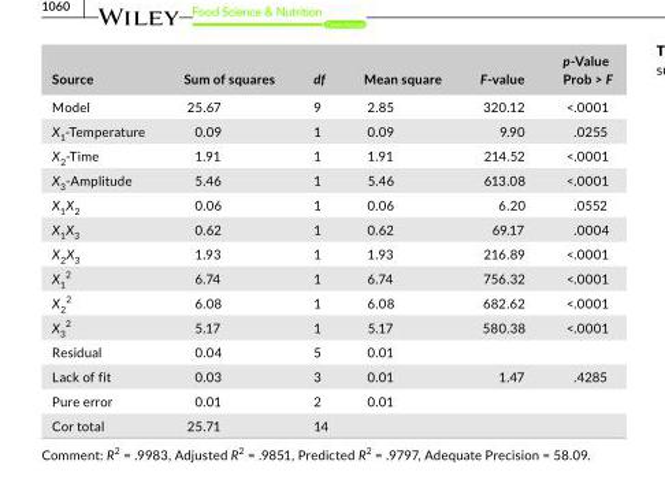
<table><thead><tr><td>Source</td><td>Sumofsquares</td><td>df</td><td>Meansquare</td><td>F-value</td><td>p-Value Prob&gt;F</td></tr></thead><tbody><tr><td>Model</td><td>25.67</td><td>9</td><td>2.85</td><td>320.12</td><td>&lt;.0001</td></tr><tr><td>X<sub>1</sub>- Temperature</td><td>0.09</td><td>1</td><td>0.09</td><td>9.90</td><td>.0255</td></tr><tr><td>X<sub>2</sub>- Time</td><td>1.91</td><td>1</td><td>1.91</td><td>214.52</td><td>&lt;.0001</td></tr><tr><td>X<sub>3</sub>- Amplitude</td><td>5.46</td><td>1</td><td>5.46</td><td>613.08</td><td>&lt;.0001</td></tr><tr><td>X<sub>1</sub>X<sub>2</sub></td><td>0.06</td><td>1</td><td>0.06</td><td>6.20</td><td>.0552</td></tr><tr><td>X<sub>1</sub>X<sub>3</sub></td><td>0.62</td><td>1</td><td>0.62</td><td>69.17</td><td>.0004</td></tr><tr><td>X<sub>2</sub>X<sub>3</sub></td><td>1.93</td><td>1</td><td>1.93</td><td>216.89</td><td>&lt;.0001</td></tr><tr><td>X<sub>1</sub> <sup>2</sup></td><td>6.74</td><td>1</td><td>6.74</td><td>756.32</td><td>&lt;.0001</td></tr><tr><td>X<sub>2</sub> <sup>2</sup></td><td>6.08</td><td>1</td><td>6.08</td><td>682.62</td><td>&lt;.0001</td></tr><tr><td>X<sub>3</sub> <sup>2</sup></td><td>5.17</td><td>1</td><td>5.17</td><td>580.38</td><td>&lt;.0001</td></tr><tr><td>Residual</td><td>0.04</td><td>5</td><td>0.01</td><td></td><td></td></tr><tr><td>Lack of fit</td><td>0.03</td><td>3</td><td>0.01</td><td>1.47</td><td>.4285</td></tr><tr><td>Pure error</td><td>0.01</td><td>2</td><td>0.01</td><td></td><td></td></tr><tr><td>Cor total</td><td>25.71</td><td>14</td><td></td><td></td><td></td></tr></tbody></table>